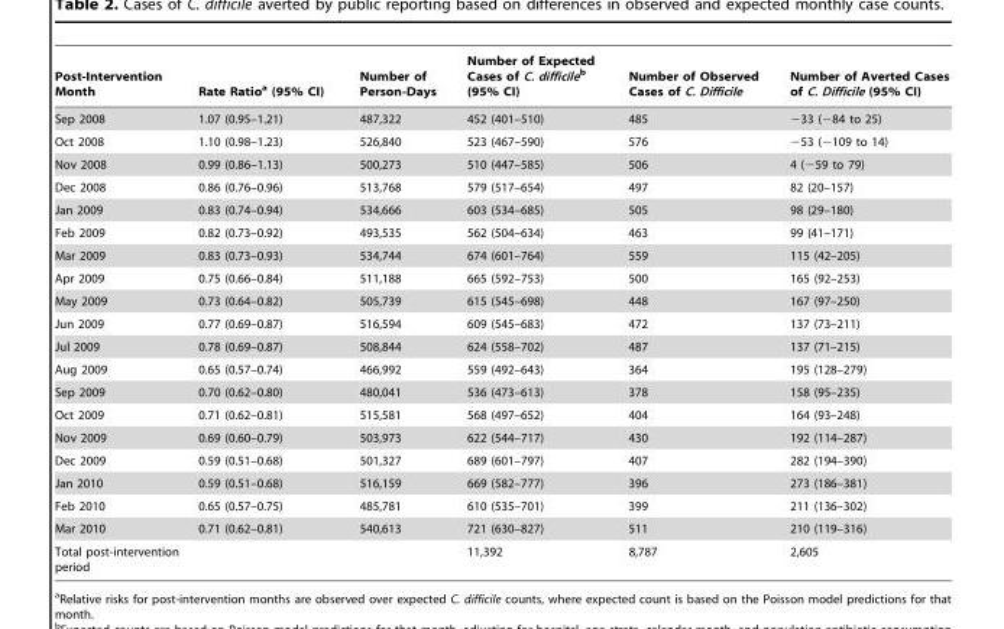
<table><thead><tr><td>Post-Intervention Month</td><td>Rate Ratio<sup>a</sup> (95% CI)</td><td>Number of Person-Days</td><td>Number of Expected Cases of C. difficileb (95% CI)</td><td>Number of Observed Cases of C. Difficile</td><td>Number of Averted Cases of C. Difficile (95% CI)</td></tr></thead><tbody><tr><td>Sep 2008</td><td>1.07 (0.95–1.21)</td><td>487,322</td><td>452 (401–510)</td><td>485</td><td>−33 (−84 to 25)</td></tr><tr><td>Oct 2008</td><td>1.10 (0.98–1.23)</td><td>526,840</td><td>523 (467–590)</td><td>576</td><td>−53 (−109 to 14)</td></tr><tr><td>Nov 2008</td><td>0.99 (0.86–1.13)</td><td>500,273</td><td>510 (447–585)</td><td>506</td><td>4 (−59 to 79)</td></tr><tr><td>Dec 2008</td><td>0.86 (0.76–0.96)</td><td>513,768</td><td>579 (517–654)</td><td>497</td><td>82 (20–157)</td></tr><tr><td>Jan 2009</td><td>0.83 (0.74–0.94)</td><td>534,666</td><td>603 (534–685)</td><td>505</td><td>98 (29–180)</td></tr><tr><td>Feb 2009</td><td>0.82 (0.73–0.92)</td><td>493,535</td><td>562 (504–634)</td><td>463</td><td>99 (41–171)</td></tr><tr><td>Mar 2009</td><td>0.83 (0.73–0.93)</td><td>534,744</td><td>674 (601–764)</td><td>559</td><td>115 (42–205)</td></tr><tr><td>Apr 2009</td><td>0.75 (0.66–0.84)</td><td>511,188</td><td>665 (592–753)</td><td>500</td><td>165 (92–253)</td></tr><tr><td>May 2009</td><td>0.73 (0.64–0.82)</td><td>505,739</td><td>615 (545–698)</td><td>448</td><td>167 (97–250)</td></tr><tr><td>Jun 2009</td><td>0.77 (0.69–0.87)</td><td>516,594</td><td>609 (545–683)</td><td>472</td><td>137 (73–211)</td></tr><tr><td>Jul 2009</td><td>0.78 (0.69–0.87)</td><td>508,844</td><td>624 (558–702)</td><td>487</td><td>137 (71–215)</td></tr><tr><td>Aug 2009</td><td>0.65 (0.57–0.74)</td><td>466,992</td><td>559 (492–643)</td><td>364</td><td>195 (128–279)</td></tr><tr><td>Sep 2009</td><td>0.70 (0.62–0.80)</td><td>480,041</td><td>536 (473–613)</td><td>378</td><td>158 (95–235)</td></tr><tr><td>Oct 2009</td><td>0.71 (0.62–0.81)</td><td>515,581</td><td>568 (497–652)</td><td>404</td><td>164 (93–248)</td></tr><tr><td>Nov 2009</td><td>0.69 (0.60–0.79)</td><td>503,973</td><td>622 (544–717)</td><td>430</td><td>192 (114–287)</td></tr><tr><td>Dec 2009</td><td>0.59 (0.51–0.68)</td><td>501,327</td><td>689 (601–797)</td><td>407</td><td>282 (194–390)</td></tr><tr><td>Jan 2010</td><td>0.59 (0.51–0.68)</td><td>516,159</td><td>669 (582–777)</td><td>396</td><td>273 (186–381)</td></tr><tr><td>Feb 2010</td><td>0.65 (0.57–0.75)</td><td>485,781</td><td>610 (535–701)</td><td>399</td><td>211 (136–302)</td></tr><tr><td>Mar 2010</td><td>0.71 (0.62–0.81)</td><td>540,613</td><td>721 (630–827)</td><td>511</td><td>210 (119–316)</td></tr><tr><td>Total post-intervention period</td><td></td><td></td><td>11,392</td><td>8,787</td><td>2,605</td></tr></tbody></table>